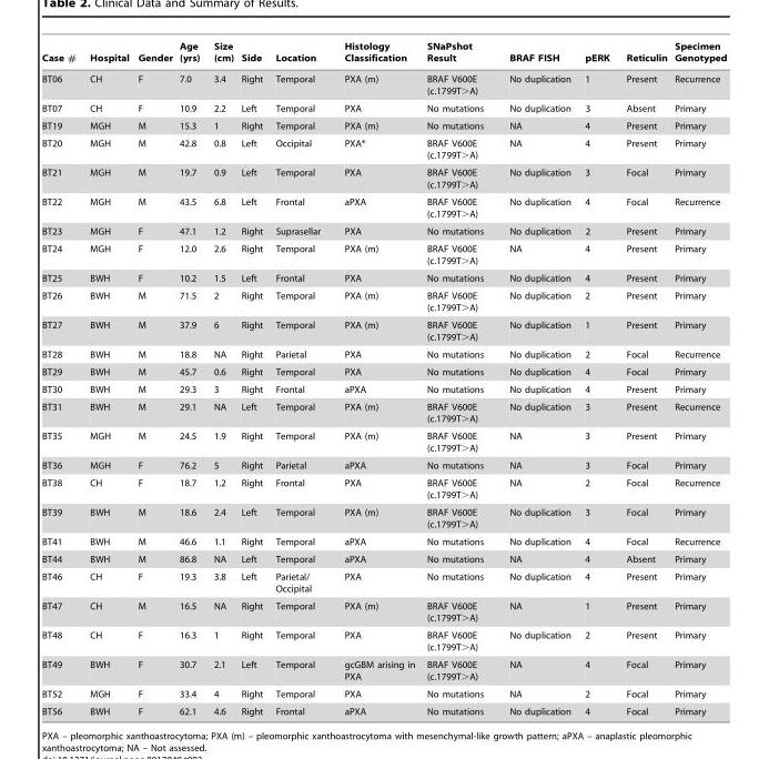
<table><thead><tr><td>Case #</td><td>Hospital</td><td>Gender</td><td>Age (yrs)</td><td>Size (cm)</td><td>Side</td><td>Location</td><td>Histology Classification</td><td>SNaPshot Result</td><td>BRAF FISH</td><td>pERK</td><td>Reticulin</td><td>Specimen Genotyped</td></tr></thead><tbody><tr><td>BT06</td><td>CH</td><td>F</td><td>7.0</td><td>3.4</td><td>Right</td><td>Temporal</td><td>PXA (m)</td><td>BRAF V600E (c.1799T&gt;A)</td><td>No duplication</td><td>1</td><td>Present</td><td>Recurrence</td></tr><tr><td>BT07</td><td>CH</td><td>F</td><td>10.9</td><td>2.2</td><td>Left</td><td>Temporal</td><td>PXA</td><td>No mutations</td><td>No duplication</td><td>3</td><td>Absent</td><td>Primary</td></tr><tr><td>BT19</td><td>MGH</td><td>M</td><td>15.3</td><td>1</td><td>Right</td><td>Temporal</td><td>PXA (m)</td><td>No mutations</td><td>NA</td><td>4</td><td>Present</td><td>Primary</td></tr><tr><td>BT20</td><td>MGH</td><td>M</td><td>42.8</td><td>0.8</td><td>Left</td><td>Occipital</td><td>PXA*</td><td>BRAF V600E (c.1799T&gt;A)</td><td>NA</td><td>4</td><td>Present</td><td>Primary</td></tr><tr><td>BT21</td><td>MGH</td><td>M</td><td>19.7</td><td>0.9</td><td>Left</td><td>Temporal</td><td>PXA</td><td>BRAF V600E (c.1799T&gt;A)</td><td>No duplication</td><td>3</td><td>Focal</td><td>Primary</td></tr><tr><td>BT22</td><td>MGH</td><td>M</td><td>43.5</td><td>6.8</td><td>Left</td><td>Frontal</td><td>aPXA</td><td>BRAF V600E (c.1799T&gt;A)</td><td>No duplication</td><td>4</td><td>Focal</td><td>Recurrence</td></tr><tr><td>BT23</td><td>MGH</td><td>F</td><td>47.1</td><td>1.2</td><td>Right</td><td>Suprasellar</td><td>PXA</td><td>No mutations</td><td>No duplication</td><td>2</td><td>Present</td><td>Primary</td></tr><tr><td>BT24</td><td>MGH</td><td>F</td><td>12.0</td><td>2.6</td><td>Right</td><td>Temporal</td><td>PXA (m)</td><td>BRAF V600E (c.1799T&gt;A)</td><td>NA</td><td>4</td><td>Present</td><td>Primary</td></tr><tr><td>BT25</td><td>BWH</td><td>F</td><td>10.2</td><td>1.5</td><td>Left</td><td>Frontal</td><td>PXA</td><td>No mutations</td><td>No duplication</td><td>4</td><td>Present</td><td>Primary</td></tr><tr><td>BT26</td><td>BWH</td><td>M</td><td>71.5</td><td>2</td><td>Right</td><td>Temporal</td><td>PXA (m)</td><td>BRAF V600E (c.1799T&gt;A)</td><td>No duplication</td><td>2</td><td>Present</td><td>Primary</td></tr><tr><td>BT27</td><td>BWH</td><td>M</td><td>37.9</td><td>6</td><td>Right</td><td>Temporal</td><td>PXA (m)</td><td>BRAF V600E (c.1799T&gt;A)</td><td>No duplication</td><td>1</td><td>Present</td><td>Primary</td></tr><tr><td>BT28</td><td>BWH</td><td>M</td><td>18.8</td><td>NA</td><td>Right</td><td>Parietal</td><td>PXA</td><td>No mutations</td><td>No duplication</td><td>2</td><td>Focal</td><td>Recurrence</td></tr><tr><td>BT29</td><td>BWH</td><td>M</td><td>45.7</td><td>0.6</td><td>Right</td><td>Temporal</td><td>PXA</td><td>No mutations</td><td>No duplication</td><td>4</td><td>Focal</td><td>Primary</td></tr><tr><td>BT30</td><td>BWH</td><td>M</td><td>29.3</td><td>3</td><td>Right</td><td>Frontal</td><td>aPXA</td><td>No mutations</td><td>No duplication</td><td>4</td><td>Present</td><td>Primary</td></tr><tr><td>BT31</td><td>BWH</td><td>M</td><td>29.1</td><td>NA</td><td>Left</td><td>Temporal</td><td>PXA (m)</td><td>BRAF V600E (c.1799T&gt;A)</td><td>No duplication</td><td>3</td><td>Present</td><td>Recurrence</td></tr><tr><td>BT35</td><td>MGH</td><td>M</td><td>24.5</td><td>1.9</td><td>Right</td><td>Temporal</td><td>PXA (m)</td><td>BRAF V600E (c.1799T&gt;A)</td><td>NA</td><td>3</td><td>Present</td><td>Primary</td></tr><tr><td>BT36</td><td>MGH</td><td>F</td><td>76.2</td><td>5</td><td>Right</td><td>Parietal</td><td>aPXA</td><td>No mutations</td><td>NA</td><td>3</td><td>Focal</td><td>Primary</td></tr><tr><td>BT38</td><td>CH</td><td>F</td><td>18.7</td><td>1.2</td><td>Right</td><td>Frontal</td><td>PXA</td><td>BRAF V600E (c.1799T&gt;A)</td><td>NA</td><td>2</td><td>Focal</td><td>Recurrence</td></tr><tr><td>BT39</td><td>BWH</td><td>M</td><td>18.6</td><td>2.4</td><td>Left</td><td>Temporal</td><td>PXA (m)</td><td>BRAF V600E (c.1799T&gt;A)</td><td>No duplication</td><td>3</td><td>Focal</td><td>Primary</td></tr><tr><td>BT41</td><td>BWH</td><td>M</td><td>46.6</td><td>1.1</td><td>Right</td><td>Temporal</td><td>aPXA</td><td>No mutations</td><td>No duplication</td><td>4</td><td>Focal</td><td>Recurrence</td></tr><tr><td>BT44</td><td>BWH</td><td>M</td><td>86.8</td><td>NA</td><td>Left</td><td>Temporal</td><td>aPXA</td><td>No mutations</td><td>NA</td><td>4</td><td>Absent</td><td>Primary</td></tr><tr><td>BT46</td><td>CH</td><td>F</td><td>19.3</td><td>3.8</td><td>Left</td><td>Parietal/ Occipital</td><td>PXA</td><td>No mutations</td><td>No duplication</td><td>4</td><td>Present</td><td>Primary</td></tr><tr><td>BT47</td><td>CH</td><td>M</td><td>16.5</td><td>NA</td><td>Right</td><td>Temporal</td><td>PXA (m)</td><td>BRAF V600E (c.1799T&gt;A)</td><td>NA</td><td>1</td><td>Present</td><td>Primary</td></tr><tr><td>BT48</td><td>CH</td><td>F</td><td>16.3</td><td>1</td><td>Right</td><td>Temporal</td><td>PXA</td><td>BRAF V600E (c.1799T&gt;A)</td><td>No duplication</td><td>2</td><td>Present</td><td>Primary</td></tr><tr><td>BT49</td><td>BWH</td><td>F</td><td>30.7</td><td>2.1</td><td>Left</td><td>Temporal</td><td>gcGBM arising in PXA</td><td>BRAF V600E (c.1799T&gt;A)</td><td>NA</td><td>4</td><td>Focal</td><td>Primary</td></tr><tr><td>BT52</td><td>MGH</td><td>F</td><td>33.4</td><td>4</td><td>Right</td><td>Temporal</td><td>PXA</td><td>No mutations</td><td>NA</td><td>2</td><td>Focal</td><td>Primary</td></tr><tr><td>BT56</td><td>BWH</td><td>F</td><td>62.1</td><td>4.6</td><td>Right</td><td>Frontal</td><td>aPXA</td><td>No mutations</td><td>No duplication</td><td>4</td><td>Focal</td><td>Primary</td></tr></tbody></table>